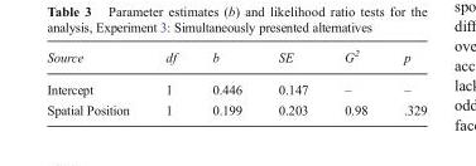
<table><thead><tr><td>Source</td><td>df</td><td>b</td><td>SE</td><td>G<sup>2</sup></td><td>p</td></tr></thead><tbody><tr><td>Intercept</td><td>1</td><td>0.446</td><td>0.147</td><td>–</td><td>–</td></tr><tr><td>Spatial Position</td><td>1</td><td>0.199</td><td>0.203</td><td>0.98</td><td>.329</td></tr></tbody></table>